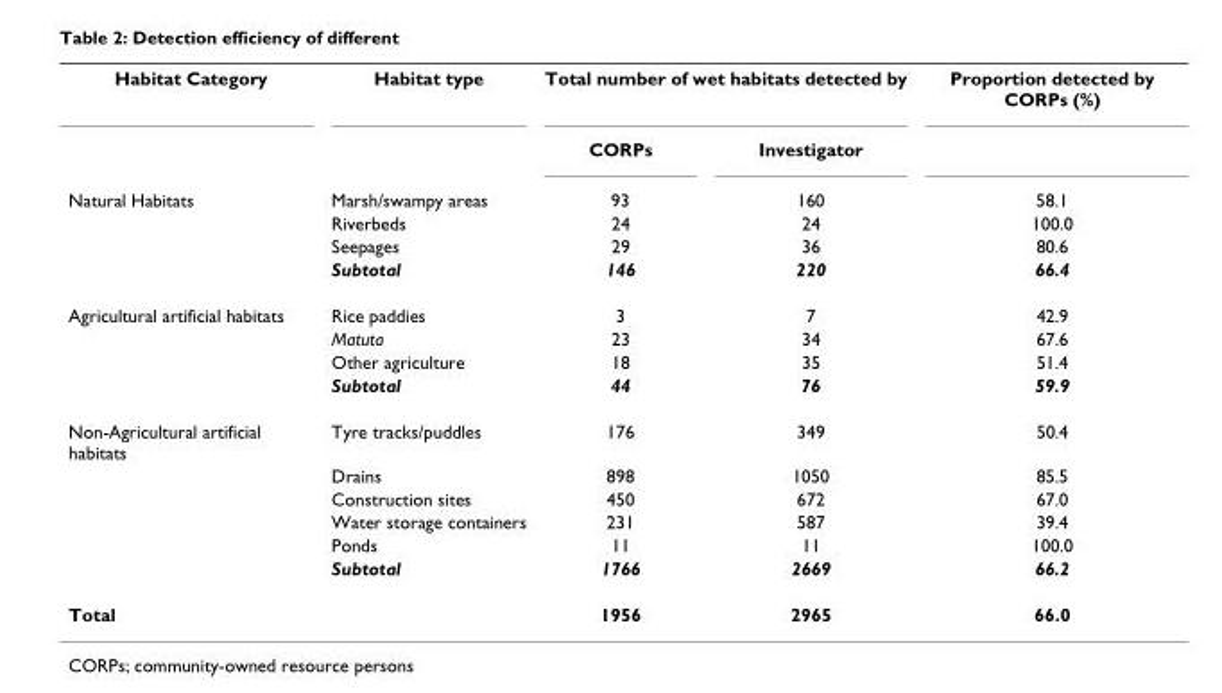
<table><tbody><tr><td rowspan="2">Habitat Category</td><td>Habitat type</td><td colspan="2">Total number of wet habitats detected by</td><td>Proportion detected by CORPs (%)</td></tr><tr><td></td><td>CORPs</td><td>Investigator</td><td></td></tr><tr><td rowspan="4">Natural Habitats</td><td>Marsh/swampy areas</td><td>93</td><td>160</td><td>58.1</td></tr><tr><td>Riverbeds</td><td>24</td><td>24</td><td>100.0</td></tr><tr><td>Seepages</td><td>29</td><td>36</td><td>80.6</td></tr><tr><td>Subtotal</td><td>146</td><td>220</td><td>66.4</td></tr><tr><td rowspan="4">Agricultural artificial habitats</td><td>Rice paddies</td><td>3</td><td>7</td><td>42.9</td></tr><tr><td>Matuta</td><td>23</td><td>34</td><td>67.6</td></tr><tr><td>Other agriculture</td><td>18</td><td>35</td><td>51.4</td></tr><tr><td>Subtotal</td><td>44</td><td>76</td><td>59.9</td></tr><tr><td rowspan="6">Non-Agricultural artificial habitats</td><td>Tyre tracks/puddles</td><td>176</td><td>349</td><td>50.4</td></tr><tr><td>Drains</td><td>898</td><td>1050</td><td>85.5</td></tr><tr><td>Construction sites</td><td>450</td><td>672</td><td>67.0</td></tr><tr><td>Water storage containers</td><td>231</td><td>587</td><td>39.4</td></tr><tr><td>Ponds</td><td>11</td><td>11</td><td>100.0</td></tr><tr><td>Subtotal</td><td>1766</td><td>2669</td><td>66.2</td></tr><tr><td>Total</td><td></td><td>1956</td><td>2965</td><td>66.0</td></tr></tbody></table>